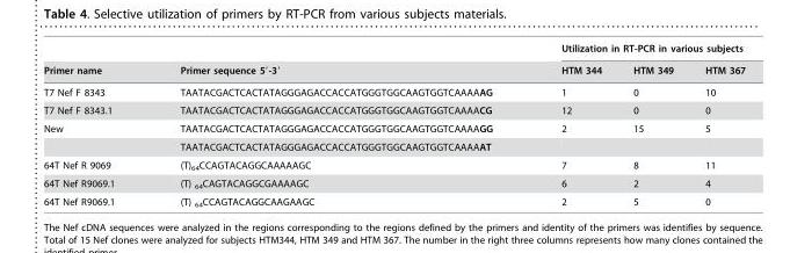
<table><thead><tr><td rowspan="2">Primer name</td><td rowspan="2">Primer sequence 5′-3′</td><td colspan="3">Utilization in RT-PCR in various subjects</td></tr><tr><td>HTM 344</td><td>HTM 349</td><td>HTM 367</td></tr></thead><tbody><tr><td>T7 Nef F 8343</td><td>TAATACGACTCACTATAGGGAGACCACCATGGGTGGCAAGTGGTCAAAAAG</td><td>1</td><td>0</td><td>10</td></tr><tr><td>T7 Nef F 8343.1</td><td>TAATACGACTCACTATAGGGAGACCACCATGGGTGGCAAGTGGTCAAAACG</td><td>12</td><td>0</td><td>0</td></tr><tr><td rowspan="2">New</td><td>TAATACGACTCACTATAGGGAGACCACCATGGGTGGCAAGTGGTCAAAAGG</td><td>2</td><td>15</td><td>5</td></tr><tr><td>TAATACGACTCACTATAGGGAGACCACCATGGGTGGCAAGTGGTCAAAAAT</td><td></td><td></td><td></td></tr><tr><td>64T Nef R 9069</td><td>(T)<sub>64</sub>CCAGTACAGGCAAAAAGC</td><td>7</td><td>8</td><td>11</td></tr><tr><td>64T Nef R9069.1</td><td>(T) <sub>64</sub>CAGTACAGGCGAAAAGC</td><td>6</td><td>2</td><td>4</td></tr><tr><td>64T Nef R9069.1</td><td>(T) <sub>64</sub>CCAGTACAGGCAAGAAGC</td><td>2</td><td>5</td><td>0</td></tr></tbody></table>